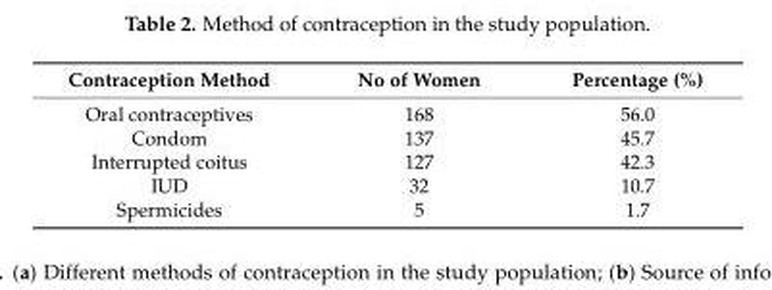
<table><thead><tr><td>Contraception Method</td><td>No of Women</td><td>Percentage (%)</td></tr></thead><tbody><tr><td>Oral contraceptives</td><td>168</td><td>56.0</td></tr><tr><td>Condom</td><td>137</td><td>45.7</td></tr><tr><td>Interrupted coitus</td><td>127</td><td>42.3</td></tr><tr><td>IUD</td><td>32</td><td>10.7</td></tr><tr><td>Spermicides</td><td>5</td><td>1.7</td></tr></tbody></table>